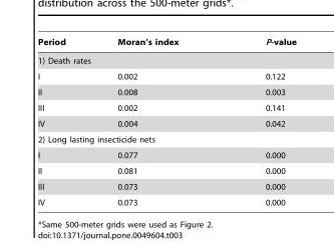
<table><thead><tr><td>Period</td><td>Moran’s index</td><td>P-value</td></tr></thead><tbody><tr><td colspan="3">1) Death rates</td></tr><tr><td>I</td><td>0.002</td><td>0.122</td></tr><tr><td>II</td><td>0.008</td><td>0.003</td></tr><tr><td>III</td><td>0.002</td><td>0.141</td></tr><tr><td>IV</td><td>0.004</td><td>0.042</td></tr><tr><td colspan="3">2) Long lasting insecticide nets</td></tr><tr><td>I</td><td>0.077</td><td>0.000</td></tr><tr><td>II</td><td>0.081</td><td>0.000</td></tr><tr><td>III</td><td>0.073</td><td>0.000</td></tr><tr><td>IV</td><td>0.073</td><td>0.000</td></tr></tbody></table>